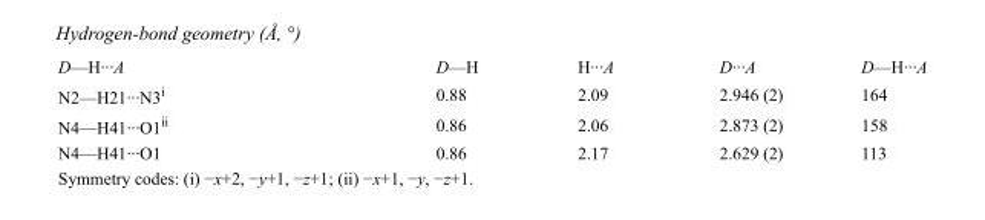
<table><tbody><tr><td>D—H···A</td><td>D—H</td><td>H···A</td><td>D···A</td><td>D—H···A</td></tr><tr><td>N2—H21···N3<sup>i</sup></td><td>0.88</td><td>2.09</td><td>2.946 (2)</td><td>164</td></tr><tr><td>N4—H41···O1<sup>ii</sup></td><td>0.86</td><td>2.06</td><td>2.873 (2)</td><td>158</td></tr><tr><td>N4—H41···O1</td><td>0.86</td><td>2.17</td><td>2.629 (2)</td><td>113</td></tr></tbody></table>